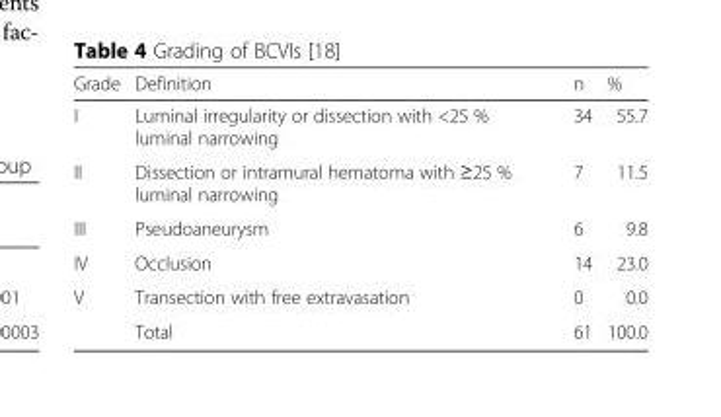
<table><thead><tr><td>Grade</td><td>Definition</td><td>n</td><td>%</td></tr></thead><tbody><tr><td>I</td><td>Luminal irregularity or dissection with &lt;25 % luminal narrowing</td><td>34</td><td>55.7</td></tr><tr><td>II</td><td>Dissection or intramural hematoma with ≥25 % luminal narrowing</td><td>7</td><td>11.5</td></tr><tr><td>III</td><td>Pseudoaneurysm</td><td>6</td><td>9.8</td></tr><tr><td>IV</td><td>Occlusion</td><td>14</td><td>23.0</td></tr><tr><td rowspan="2">V</td><td>Transection with free extravasation</td><td>0</td><td>0.0</td></tr><tr><td>Total</td><td>61</td><td>100.0</td></tr></tbody></table>